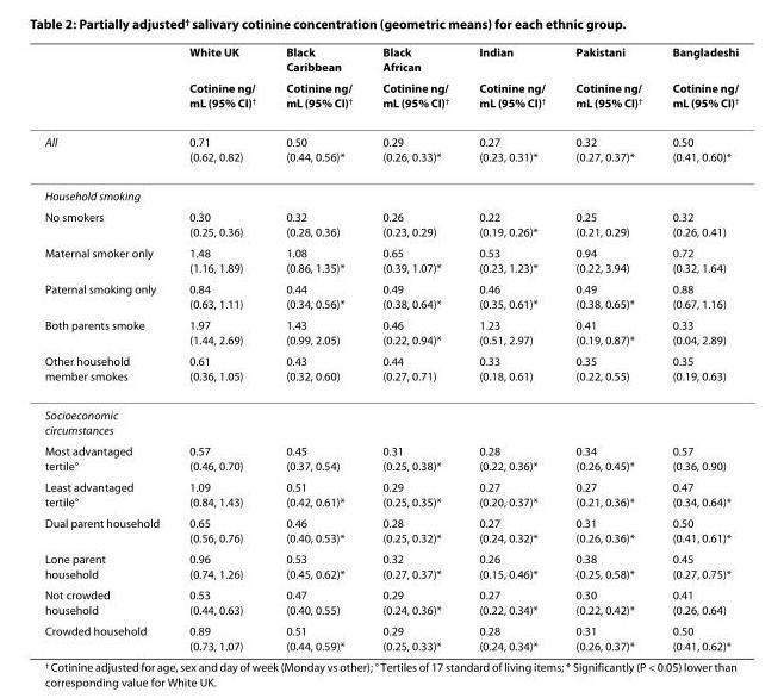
<table><thead><tr><td rowspan="2"></td><td rowspan="2">White UK Cotinine ng/ mL (95% CI)†</td><td rowspan="2">Black Caribbean Cotinine ng/ mL (95% CI)†</td><td rowspan="2">Black African Cotinine ng/ mL (95% CI)†</td><td rowspan="2">Indian Cotinine ng/ mL (95% CI)†</td><td rowspan="2">Pakistani Cotinine ng/ mL (95% CI)†</td><td rowspan="2">Bangladeshi Cotinine ng/ mL (95% CI)†</td></tr><tr></tr></thead><tbody><tr><td>All</td><td>0.71 (0.62, 0.82)</td><td>0.50 (0.44, 0.56)*</td><td>0.29 (0.26, 0.33)*</td><td>0.27 (0.23, 0.31)*</td><td>0.32 (0.27, 0.37)*</td><td>0.50 (0.41, 0.60)*</td></tr><tr><td colspan="7">Household smoking</td></tr><tr><td>No smokers</td><td>0.30 (0.25, 0.36)</td><td>0.32 (0.28, 0.36)</td><td>0.26 (0.23, 0.29)</td><td>0.22 (0.19, 0.26)*</td><td>0.25 (0.21, 0.29)</td><td>0.32 (0.26, 0.41)</td></tr><tr><td>Maternal smoker only</td><td>1.48 (1.16, 1.89)</td><td>1.08 (0.86, 1.35)*</td><td>0.65 (0.39, 1.07)*</td><td>0.53 (0.23, 1.23)*</td><td>0.94 (0.22, 3.94)</td><td>0.72 (0.32, 1.64)</td></tr><tr><td>Paternal smoking only</td><td>0.84 (0.63, 1.11)</td><td>0.44 (0.34, 0.56)*</td><td>0.49 (0.38, 0.64)*</td><td>0.46 (0.35, 0.61)*</td><td>0.49 (0.38, 0.65)*</td><td>0.88 (0.67, 1.16)</td></tr><tr><td>Both parents smoke</td><td>1.97 (1.44, 2.69)</td><td>1.43 (0.99, 2.05)</td><td>0.46 (0.22, 0.94)*</td><td>1.23 (0.51, 2.97)</td><td>0.41 (0.19, 0.87)*</td><td>0.33 (0.04, 2.89)</td></tr><tr><td>Other household member smokes</td><td>0.61 (0.36, 1.05)</td><td>0.43 (0.32, 0.60)</td><td>0.44 (0.27, 0.71)</td><td>0.33 (0.18, 0.61)</td><td>0.35 (0.22, 0.55)</td><td>0.35 (0.19, 0.63)</td></tr><tr><td colspan="7">Socioeconomic circumstances</td></tr><tr><td>Most advantaged tertile°</td><td>0.57 (0.46, 0.70)</td><td>0.45 (0.37, 0.54)</td><td>0.31 (0.25, 0.38)*</td><td>0.28 (0.22, 0.36)*</td><td>0.34 (0.26, 0.45)*</td><td>0.57 (0.36, 0.90)</td></tr><tr><td>Least advantaged tertile°</td><td>1.09 (0.84, 1.43)</td><td>0.51 (0.42, 0.61)*</td><td>0.29 (0.25, 0.35)*</td><td>0.27 (0.20, 0.37)*</td><td>0.27 (0.21, 0.36)*</td><td>0.47 (0.34, 0.64)*</td></tr><tr><td>Dual parent household</td><td>0.65 (0.56, 0.76)</td><td>0.46 (0.40, 0.53)*</td><td>0.28 (0.25, 0.32)*</td><td>0.27 (0.24, 0.32)*</td><td>0.31 (0.26, 0.36)*</td><td>0.50 (0.41, 0.61)*</td></tr><tr><td>Lone parent household</td><td>0.96 (0.74, 1.26)</td><td>0.53 (0.45, 0.62)*</td><td>0.32 (0.27, 0.37)*</td><td>0.26 (0.15, 0.46)*</td><td>0.38 (0.25, 0.58)*</td><td>0.45 (0.27, 0.75)*</td></tr><tr><td>Not crowded household</td><td>0.53 (0.44, 0.63)</td><td>0.47 (0.40, 0.55)</td><td>0.29 (0.24, 0.36)*</td><td>0.27 (0.22, 0.34)*</td><td>0.30 (0.22, 0.42)*</td><td>0.41 (0.26, 0.64)</td></tr><tr><td>Crowded household</td><td>0.89 (0.73, 1.07)</td><td>0.51 (0.44, 0.59)*</td><td>0.29 (0.25, 0.33)*</td><td>0.28 (0.24, 0.34)*</td><td>0.31 (0.26, 0.37)*</td><td>0.50 (0.41, 0.62)*</td></tr></tbody></table>